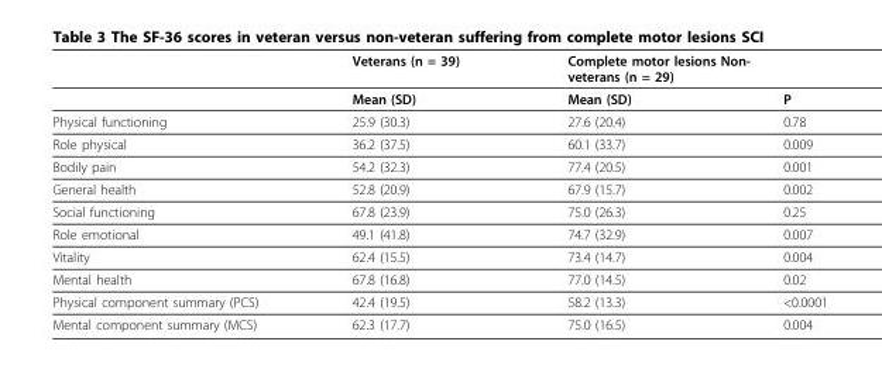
<table><thead><tr><td></td><td>Veterans (n = 39)</td><td>Complete motor lesions Non- veterans (n = 29)</td><td></td></tr></thead><tbody><tr><td></td><td>Mean (SD)</td><td>Mean (SD)</td><td>P</td></tr><tr><td>Physical functioning</td><td>25.9 (30.3)</td><td>27.6 (20.4)</td><td>0.78</td></tr><tr><td>Role physical</td><td>36.2 (37.5)</td><td>60.1 (33.7)</td><td>0.009</td></tr><tr><td>Bodily pain</td><td>54.2 (32.3)</td><td>77.4 (20.5)</td><td>0.001</td></tr><tr><td>General health</td><td>52.8 (20.9)</td><td>67.9 (15.7)</td><td>0.002</td></tr><tr><td>Social functioning</td><td>67.8 (23.9)</td><td>75.0 (26.3)</td><td>0.25</td></tr><tr><td>Role emotional</td><td>49.1 (41.8)</td><td>74.7 (32.9)</td><td>0.007</td></tr><tr><td>Vitality</td><td>62.4 (15.5)</td><td>73.4 (14.7)</td><td>0.004</td></tr><tr><td>Mental health</td><td>67.8 (16.8)</td><td>77.0 (14.5)</td><td>0.02</td></tr><tr><td>Physical component summary (PCS)</td><td>42.4 (19.5)</td><td>58.2 (13.3)</td><td>&lt;0.0001</td></tr><tr><td>Mental component summary (MCS)</td><td>62.3 (17.7)</td><td>75.0 (16.5)</td><td>0.004</td></tr></tbody></table>